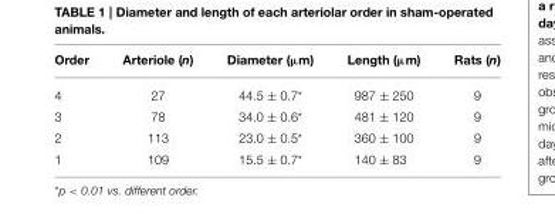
<table><thead><tr><td>Order</td><td>Arteriole (n)</td><td>Diameter (µm)</td><td>Length (µm)</td><td>Rats (n)</td></tr></thead><tbody><tr><td>4</td><td>27</td><td>44.5 ± 0.7*</td><td>987 ± 250</td><td>9</td></tr><tr><td>3</td><td>78</td><td>34.0 ± 0.6*</td><td>481 ± 120</td><td>9</td></tr><tr><td>2</td><td>113</td><td>23.0 ± 0.5*</td><td>360 ± 100</td><td>9</td></tr><tr><td>1</td><td>109</td><td>15.5 ± 0.7*</td><td>140 ± 83</td><td>9</td></tr></tbody></table>